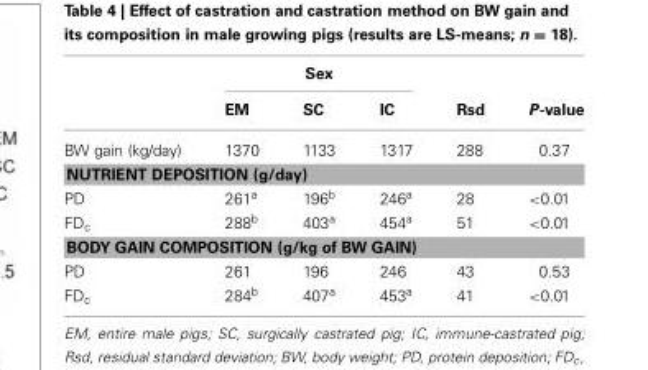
<table><thead><tr><td rowspan="2"></td><td colspan="3">Sex</td><td rowspan="2">Rsd</td><td rowspan="2">P-value</td></tr><tr><td>EM</td><td>SC</td><td>IC</td></tr></thead><tbody><tr><td>BW gain (kg/day)</td><td>1370</td><td>1133</td><td>1317</td><td>288</td><td>0.37</td></tr><tr><td colspan="6">NUTRIENT DEPOSITION (g/day)</td></tr><tr><td>PD</td><td>261<sup>a</sup></td><td>196<sup>b</sup></td><td>246<sup>a</sup></td><td>28</td><td>&lt;0.01</td></tr><tr><td>FD<sub>c</sub></td><td>288<sup>b</sup></td><td>403<sup>a</sup></td><td>454<sup>a</sup></td><td>51</td><td>&lt;0.01</td></tr><tr><td colspan="6">BODY GAIN COMPOSITION (g/kg of BW GAIN)</td></tr><tr><td>PD</td><td>261</td><td>196</td><td>246</td><td>43</td><td>0.53</td></tr><tr><td>FD<sub>c</sub></td><td>284<sup>b</sup></td><td>407<sup>a</sup></td><td>453<sup>a</sup></td><td>41</td><td>&lt;0.01</td></tr></tbody></table>